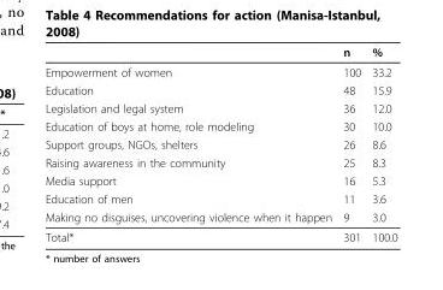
<table><thead><tr><td></td><td>n</td><td>%</td></tr></thead><tbody><tr><td>Empowerment of women</td><td>100</td><td>33.2</td></tr><tr><td>Education</td><td>48</td><td>15.9</td></tr><tr><td>Legislation and legal system</td><td>36</td><td>12.0</td></tr><tr><td>Education of boys at home, role modeling</td><td>30</td><td>10.0</td></tr><tr><td>Support groups, NGOs, shelters</td><td>26</td><td>8.6</td></tr><tr><td>Raising awareness in the community</td><td>25</td><td>8.3</td></tr><tr><td>Media support</td><td>16</td><td>5.3</td></tr><tr><td>Education of men</td><td>11</td><td>3.6</td></tr><tr><td>Making no disguises, uncovering violence when it happen</td><td>9</td><td>3.0</td></tr><tr><td>Total*</td><td>301</td><td>100.0</td></tr></tbody></table>